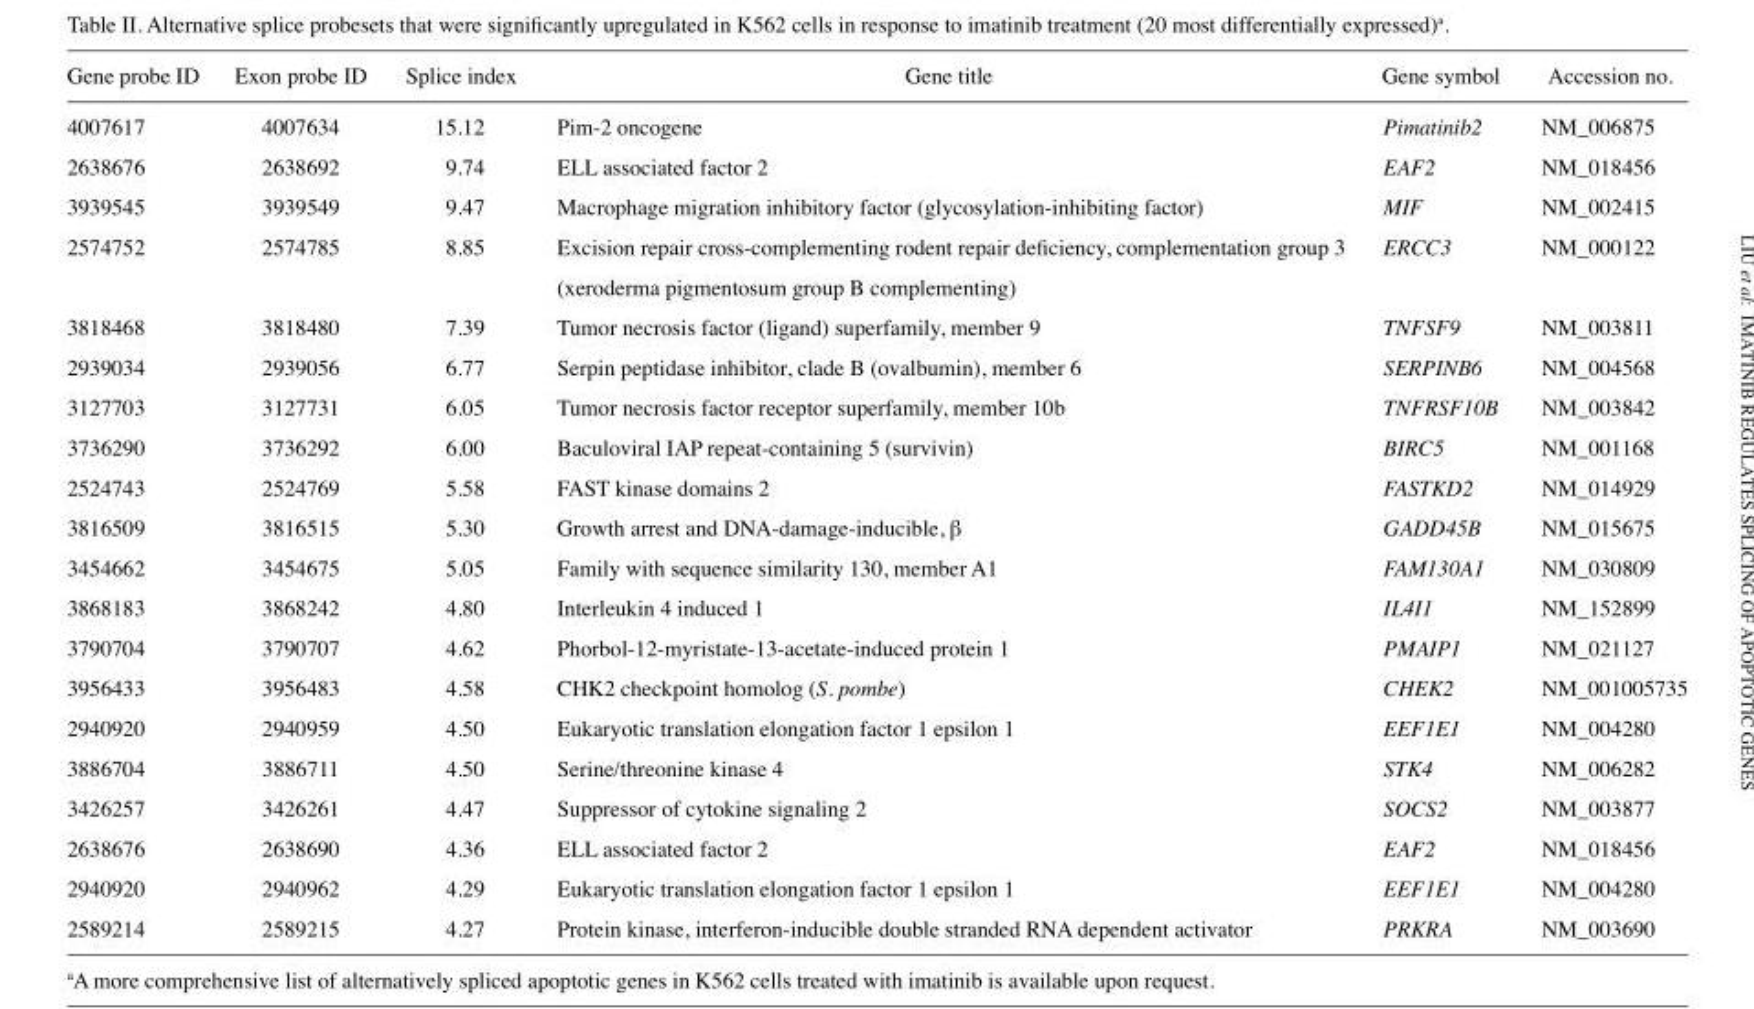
<table><thead><tr><td>Gene probe ID</td><td>Exon probe ID</td><td>Splice index</td><td>Gene title</td><td>Gene symbol</td><td>Accession no.</td></tr></thead><tbody><tr><td>4007617</td><td>4007634</td><td>15.12</td><td>Pim-2 oncogene</td><td>Pimatinib2</td><td>NM_006875</td></tr><tr><td>2638676</td><td>2638692</td><td>9.74</td><td>ELL associated factor 2</td><td>EAF2</td><td>NM_018456</td></tr><tr><td>3939545</td><td>3939549</td><td>9.47</td><td>Macrophage migration inhibitory factor (glycosylation-inhibiting factor)</td><td>MIF</td><td>NM_002415</td></tr><tr><td>2574752</td><td>2574785</td><td>8.85</td><td>Excision repair cross-complementing rodent repair deficiency, complementation group 3 (xeroderma pigmentosum group B complementing)</td><td>ERCC3</td><td>NM_000122</td></tr><tr><td>3818468</td><td>3818480</td><td>7.39</td><td>Tumor necrosis factor (ligand) superfamily, member 9</td><td>TNFSF9</td><td>NM_003811</td></tr><tr><td>2939034</td><td>2939056</td><td>6.77</td><td>Serpin peptidase inhibitor, clade B (ovalbumin), member 6</td><td>SERPINB6</td><td>NM_004568</td></tr><tr><td>3127703</td><td>3127731</td><td>6.05</td><td>Tumor necrosis factor receptor superfamily, member 10b</td><td>TNFRSF10B</td><td>NM_003842</td></tr><tr><td>3736290</td><td>3736292</td><td>6.00</td><td>Baculoviral IAP repeat-containing 5 (survivin)</td><td>BIRC5</td><td>NM_001168</td></tr><tr><td>2524743</td><td>2524769</td><td>5.58</td><td>FAST kinase domains 2</td><td>FASTKD2</td><td>NM_014929</td></tr><tr><td>3816509</td><td>3816515</td><td>5.30</td><td>Growth arrest and DNA-damage-inducible, β</td><td>GADD45B</td><td>NM_015675</td></tr><tr><td>3454662</td><td>3454675</td><td>5.05</td><td>Family with sequence similarity 130, member A1</td><td>FAM130A1</td><td>NM_030809</td></tr><tr><td>3868183</td><td>3868242</td><td>4.80</td><td>Interleukin 4 induced 1</td><td>IL4I1</td><td>NM_152899</td></tr><tr><td>3790704</td><td>3790707</td><td>4.62</td><td>Phorbol-12-myristate-13-acetate-induced protein 1</td><td>PMAIP1</td><td>NM_021127</td></tr><tr><td>3956433</td><td>3956483</td><td>4.58</td><td>CHK2 checkpoint homolog (S. pombe)</td><td>CHEK2</td><td>NM_001005735</td></tr><tr><td>2940920</td><td>2940959</td><td>4.50</td><td>Eukaryotic translation elongation factor 1 epsilon 1</td><td>EEF1E1</td><td>NM_004280</td></tr><tr><td>3886704</td><td>3886711</td><td>4.50</td><td>Serine/threonine kinase 4</td><td>STK4</td><td>NM_006282</td></tr><tr><td>3426257</td><td>3426261</td><td>4.47</td><td>Suppressor of cytokine signaling 2</td><td>SOCS2</td><td>NM_003877</td></tr><tr><td>2638676</td><td>2638690</td><td>4.36</td><td>ELL associated factor 2</td><td>EAF2</td><td>NM_018456</td></tr><tr><td>2940920</td><td>2940962</td><td>4.29</td><td>Eukaryotic translation elongation factor 1 epsilon 1</td><td>EEF1E1</td><td>NM_004280</td></tr><tr><td>2589214</td><td>2589215</td><td>4.27</td><td>Protein kinase, interferon-inducible double stranded RNA dependent activator</td><td>PRKRA</td><td>NM_003690</td></tr></tbody></table>